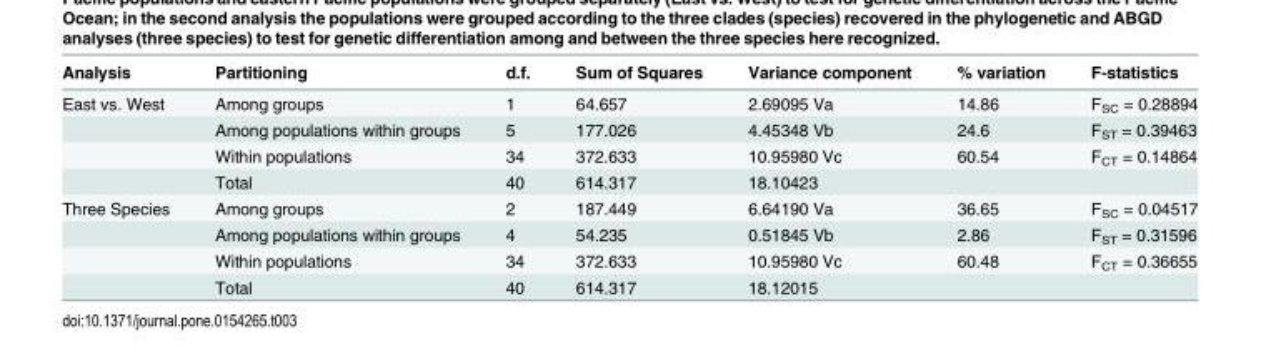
<table><thead><tr><td>Analysis</td><td>Partitioning</td><td>d.f.</td><td>Sum of Squares</td><td>Variance component</td><td>% variation</td><td>F-statistics</td></tr></thead><tbody><tr><td rowspan="4">East vs. West</td><td>Among groups</td><td>1</td><td>64.657</td><td>2.69095 Va</td><td>14.86</td><td>F<sub>SC</sub> = 0.28894</td></tr><tr><td>Among populations within groups</td><td>5</td><td>177.026</td><td>4.45348 Vb</td><td>24.6</td><td>F<sub>ST</sub> = 0.39463</td></tr><tr><td>Within populations</td><td>34</td><td>372.633</td><td>10.95980 Vc</td><td>60.54</td><td>F<sub>CT</sub> = 0.14864</td></tr><tr><td>Total</td><td>40</td><td>614.317</td><td>18.10423</td><td></td><td></td></tr><tr><td rowspan="4">Three Species</td><td>Among groups</td><td>2</td><td>187.449</td><td>6.64190 Va</td><td>36.65</td><td>F<sub>SC</sub> = 0.04517</td></tr><tr><td>Among populations within groups</td><td>4</td><td>54.235</td><td>0.51845 Vb</td><td>2.86</td><td>F<sub>ST</sub> = 0.31596</td></tr><tr><td>Within populations</td><td>34</td><td>372.633</td><td>10.95980 Vc</td><td>60.48</td><td>F<sub>CT</sub> = 0.36655</td></tr><tr><td>Total</td><td>40</td><td>614.317</td><td>18.12015</td><td></td><td></td></tr></tbody></table>